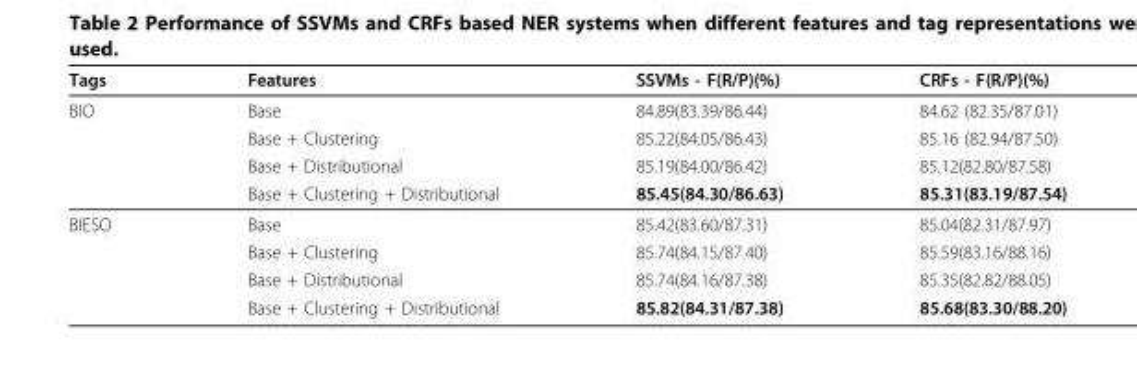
<table><thead><tr><td>Tags</td><td>Features</td><td>SSVMs - F(R/P)(%)</td><td>CRFs - F(R/P)(%)</td></tr></thead><tbody><tr><td rowspan="4">BIO</td><td>Base</td><td>84.89(83.39/86.44)</td><td>84.62 (82.35/87.01)</td></tr><tr><td>Base + Clustering</td><td>85.22(84.05/86.43)</td><td>85.16 (82.94/87.50)</td></tr><tr><td>Base + Distributional</td><td>85.19(84.00/86.42)</td><td>85.12(82.80/87.58)</td></tr><tr><td>Base + Clustering + Distributional</td><td>85.45(84.30/86.63)</td><td>85.31(83.19/87.54)</td></tr><tr><td rowspan="4">BIESO</td><td>Base</td><td>85.42(83.60/87.31)</td><td>85.04(82.31/87.97)</td></tr><tr><td>Base + Clustering</td><td>85.74(84.15/87.40)</td><td>85.59(83.16/88.16)</td></tr><tr><td>Base + Distributional</td><td>85.74(84.16/87.38)</td><td>85.35(82.82/88.05)</td></tr><tr><td>Base + Clustering + Distributional</td><td>85.82(84.31/87.38)</td><td>85.68(83.30/88.20)</td></tr></tbody></table>